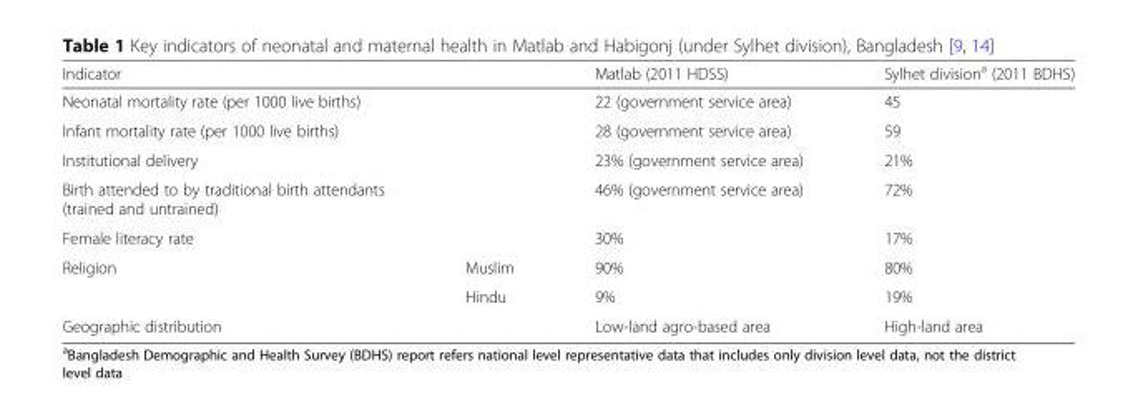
<table><thead><tr><td>Indicator</td><td></td><td>Matlab (2011 HDSS)</td><td>Sylhet division<sup>a</sup> (2011 BDHS)</td></tr></thead><tbody><tr><td>Neonatal mortality rate (per 1000 live births)</td><td></td><td>22 (government service area)</td><td>45</td></tr><tr><td>Infant mortality rate (per 1000 live births)</td><td></td><td>28 (government service area)</td><td>59</td></tr><tr><td>Institutional delivery</td><td></td><td>23% (government service area)</td><td>21%</td></tr><tr><td>Birth attended to by traditional birth attendants (trained and untrained)</td><td></td><td>46% (government service area)</td><td>72%</td></tr><tr><td>Female literacy rate</td><td></td><td>30%</td><td>17%</td></tr><tr><td rowspan="2">Religion</td><td>Muslim</td><td>90%</td><td>80%</td></tr><tr><td>Hindu</td><td>9%</td><td>19%</td></tr><tr><td>Geographic distribution</td><td></td><td>Low-land agro-based area</td><td>High-land area</td></tr></tbody></table>